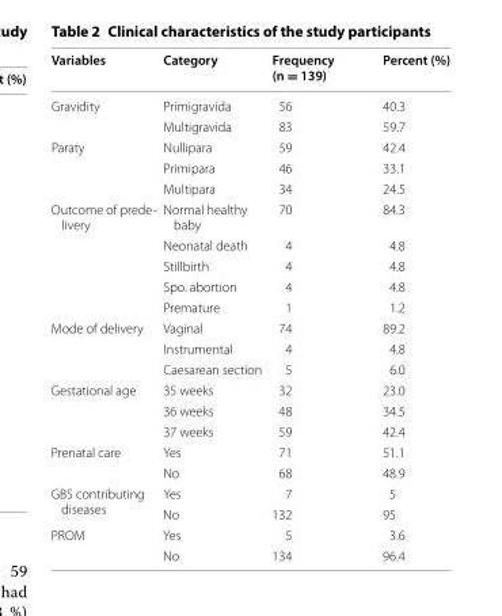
<table><thead><tr><td>Variables</td><td>Category</td><td>Frequency (n = 139)</td><td>Percent (%)</td></tr></thead><tbody><tr><td rowspan="2">Gravidity</td><td>Primigravida</td><td>56</td><td>40.3</td></tr><tr><td>Multigravida</td><td>83</td><td>59.7</td></tr><tr><td rowspan="3">Paraty</td><td>Nullipara</td><td>59</td><td>42.4</td></tr><tr><td>Primipara</td><td>46</td><td>33.1</td></tr><tr><td>Multipara</td><td>34</td><td>24.5</td></tr><tr><td rowspan="5">Outcome of prede- livery</td><td>Normal healthy baby</td><td>70</td><td>84.3</td></tr><tr><td>Neonatal death</td><td>4</td><td>4.8</td></tr><tr><td>Stillbirth</td><td>4</td><td>4.8</td></tr><tr><td>Spo. abortion</td><td>4</td><td>4.8</td></tr><tr><td>Premature</td><td>1</td><td>1.2</td></tr><tr><td rowspan="3">Mode of delivery</td><td>Vaginal</td><td>74</td><td>89.2</td></tr><tr><td>Instrumental</td><td>4</td><td>4.8</td></tr><tr><td>Caesarean section</td><td>5</td><td>6.0</td></tr><tr><td rowspan="3">Gestational age</td><td>35 weeks</td><td>32</td><td>23.0</td></tr><tr><td>36 weeks</td><td>48</td><td>34.5</td></tr><tr><td>37 weeks</td><td>59</td><td>42.4</td></tr><tr><td rowspan="2">Prenatal care</td><td>Yes</td><td>71</td><td>51.1</td></tr><tr><td>No</td><td>68</td><td>48.9</td></tr><tr><td rowspan="2">GBS contributing diseases</td><td>Yes</td><td>7</td><td>5</td></tr><tr><td>No</td><td>132</td><td>95</td></tr><tr><td rowspan="2">PROM</td><td>Yes</td><td>5</td><td>3.6</td></tr><tr><td>No</td><td>134</td><td>96.4</td></tr></tbody></table>